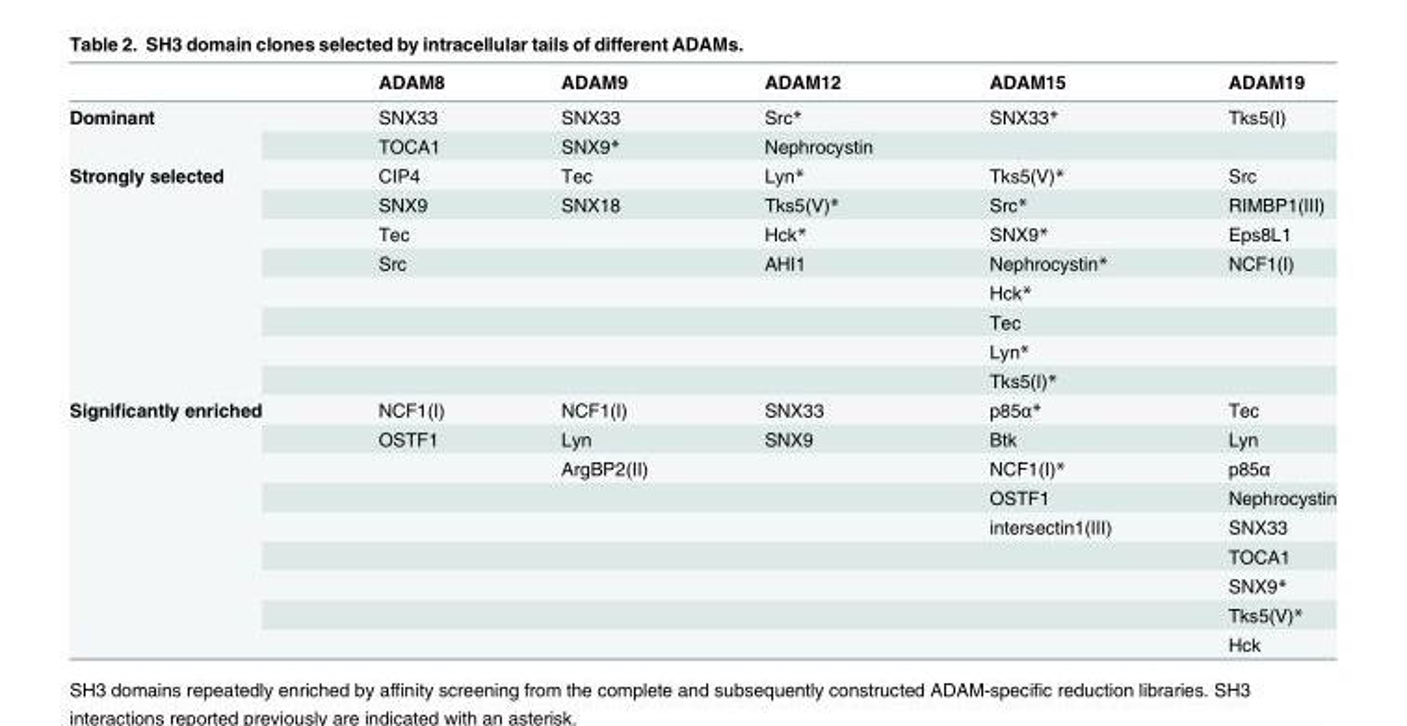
<table><thead><tr><td></td><td>ADAM8</td><td>ADAM9</td><td>ADAM12</td><td>ADAM15</td><td>ADAM19</td></tr></thead><tbody><tr><td rowspan="2">Dominant</td><td>SNX33</td><td>SNX33</td><td>Src*</td><td>SNX33*</td><td>Tks5(I)</td></tr><tr><td>TOCA1</td><td>SNX9*</td><td>Nephrocystin</td><td></td><td></td></tr><tr><td rowspan="8">Strongly selected</td><td>CIP4</td><td>Tec</td><td>Lyn*</td><td>Tks5(V)*</td><td>Src</td></tr><tr><td>SNX9</td><td>SNX18</td><td>Tks5(V)*</td><td>Src*</td><td>RIMBP1(III)</td></tr><tr><td>Tec</td><td></td><td>Hck*</td><td>SNX9*</td><td>Eps8L1</td></tr><tr><td>Src</td><td></td><td>AHI1</td><td>Nephrocystin*</td><td>NCF1(I)</td></tr><tr><td></td><td></td><td></td><td>Hck*</td><td></td></tr><tr><td></td><td></td><td></td><td>Tec</td><td></td></tr><tr><td></td><td></td><td></td><td>Lyn*</td><td></td></tr><tr><td></td><td></td><td></td><td>Tks5(I)*</td><td></td></tr><tr><td rowspan="9">Significantly enriched</td><td>NCF1(I)</td><td>NCF1(I)</td><td>SNX33</td><td>p85α*</td><td>Tec</td></tr><tr><td>OSTF1</td><td>Lyn</td><td>SNX9</td><td>Btk</td><td>Lyn</td></tr><tr><td></td><td>ArgBP2(II)</td><td></td><td>NCF1(I)*</td><td>p85α</td></tr><tr><td></td><td></td><td></td><td>OSTF1</td><td>Nephrocystin</td></tr><tr><td></td><td></td><td></td><td>intersectin1(III)</td><td>SNX33</td></tr><tr><td></td><td></td><td></td><td></td><td>TOCA1</td></tr><tr><td></td><td></td><td></td><td></td><td>SNX9*</td></tr><tr><td></td><td></td><td></td><td></td><td>Tks5(V)*</td></tr><tr><td></td><td></td><td></td><td></td><td>Hck</td></tr></tbody></table>